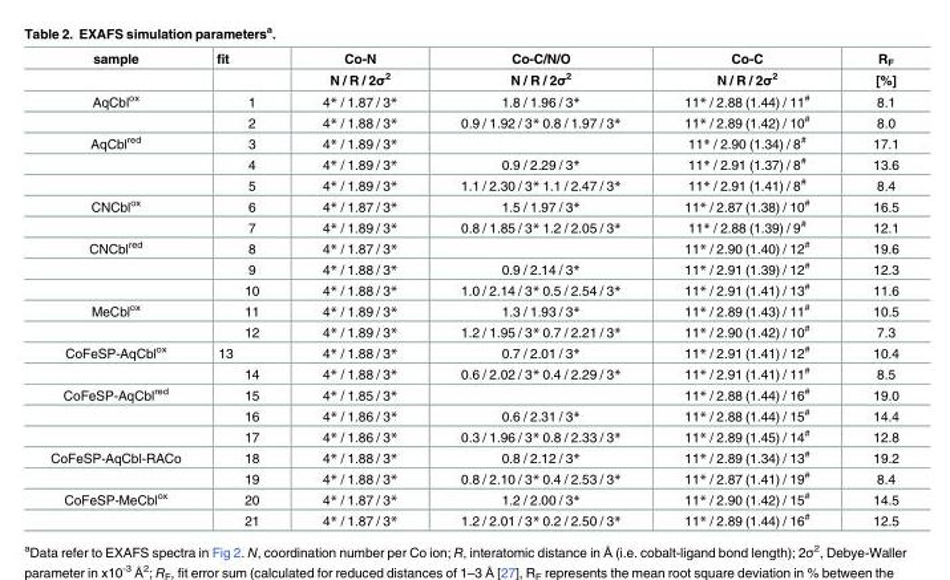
<table><thead><tr><td rowspan="2">sample</td><td rowspan="2">fit</td><td rowspan="2">Co-N N / R / 2σ<sup>2</sup></td><td rowspan="2">Co-C/N/O N / R / 2σ<sup>2</sup></td><td rowspan="2">Co-C N / R / 2σ<sup>2</sup></td><td rowspan="2">R<sub>F</sub> [%]</td></tr><tr></tr></thead><tbody><tr><td rowspan="2">AqCbl<sup>ox</sup></td><td>1</td><td>4* / 1.87 / 3*</td><td>1.8 / 1.96 / 3*</td><td>11* / 2.88 (1.44) / 11<sup>#</sup></td><td>8.1</td></tr><tr><td>2</td><td>4* / 1.88 / 3*</td><td>0.9 / 1.92 / 3* 0.8 / 1.97 / 3*</td><td>11* / 2.89 (1.42) / 10<sup>#</sup></td><td>8.0</td></tr><tr><td rowspan="3">AqCbl<sup>red</sup></td><td>3</td><td>4* / 1.89 / 3*</td><td></td><td>11* / 2.90 (1.34) / 8<sup>#</sup></td><td>17.1</td></tr><tr><td>4</td><td>4* / 1.89 / 3*</td><td>0.9 / 2.29 / 3*</td><td>11* / 2.91 (1.37) / 8<sup>#</sup></td><td>13.6</td></tr><tr><td>5</td><td>4* / 1.89 / 3*</td><td>1.1 / 2.30 / 3* 1.1 / 2.47 / 3*</td><td>11* / 2.91 (1.41) / 8<sup>#</sup></td><td>8.4</td></tr><tr><td rowspan="2">CNCbl<sup>ox</sup></td><td>6</td><td>4* / 1.87 / 3*</td><td>1.5 / 1.97 / 3*</td><td>11* / 2.87 (1.38) / 10<sup>#</sup></td><td>16.5</td></tr><tr><td>7</td><td>4* / 1.89 / 3*</td><td>0.8 / 1.85 / 3* 1.2 / 2.05 / 3*</td><td>11* / 2.88 (1.39) / 9<sup>#</sup></td><td>12.1</td></tr><tr><td rowspan="3">CNCbl<sup>red</sup></td><td>8</td><td>4* / 1.87 / 3*</td><td></td><td>11* / 2.90 (1.40) / 12<sup>#</sup></td><td>19.6</td></tr><tr><td>9</td><td>4* / 1.88 / 3*</td><td>0.9 / 2.14 / 3*</td><td>11* / 2.91 (1.39) / 12<sup>#</sup></td><td>12.3</td></tr><tr><td>10</td><td>4* / 1.88 / 3*</td><td>1.0 / 2.14 / 3* 0.5 / 2.54 / 3*</td><td>11* / 2.91 (1.41) / 13<sup>#</sup></td><td>11.6</td></tr><tr><td rowspan="2">MeCbl<sup>ox</sup></td><td>11</td><td>4* / 1.89 / 3*</td><td>1.3 / 1.93 / 3*</td><td>11* / 2.89 (1.43) / 11<sup>#</sup></td><td>10.5</td></tr><tr><td>12</td><td>4* / 1.89 / 3*</td><td>1.2 / 1.95 / 3* 0.7 / 2.21 / 3*</td><td>11* / 2.90 (1.42) / 10<sup>#</sup></td><td>7.3</td></tr><tr><td rowspan="2">CoFeSP-AqCbl<sup>ox</sup></td><td>13</td><td>4* / 1.88 / 3*</td><td>0.7 / 2.01 / 3*</td><td>11* / 2.91 (1.41) / 12<sup>#</sup></td><td>10.4</td></tr><tr><td>14</td><td>4* / 1.88 / 3*</td><td>0.6 / 2.02 / 3* 0.4 / 2.29 / 3*</td><td>11* / 2.91 (1.41) / 11<sup>#</sup></td><td>8.5</td></tr><tr><td rowspan="3">CoFeSP-AqCbl<sup>red</sup></td><td>15</td><td>4* / 1.85 / 3*</td><td></td><td>11* / 2.88 (1.44) / 16<sup>#</sup></td><td>19.0</td></tr><tr><td>16</td><td>4* / 1.86 / 3*</td><td>0.6 / 2.31 / 3*</td><td>11* / 2.88 (1.44) / 15<sup>#</sup></td><td>14.4</td></tr><tr><td>17</td><td>4* / 1.86 / 3*</td><td>0.3 / 1.96 / 3* 0.8 / 2.33 / 3*</td><td>11* / 2.89 (1.45) / 14<sup>#</sup></td><td>12.8</td></tr><tr><td rowspan="2">CoFeSP-AqCbl-RACo</td><td>18</td><td>4* / 1.88 / 3*</td><td>0.8 / 2.12 / 3*</td><td>11* / 2.89 (1.34) / 13<sup>#</sup></td><td>19.2</td></tr><tr><td>19</td><td>4* / 1.88 / 3*</td><td>0.8 / 2.10 / 3* 0.4 / 2.53 / 3*</td><td>11* / 2.87 (1.41) / 19<sup>#</sup></td><td>8.4</td></tr><tr><td rowspan="2">CoFeSP-MeCbl<sup>ox</sup></td><td>20</td><td>4* / 1.87 / 3*</td><td>1.2 / 2.00 / 3*</td><td>11* / 2.90 (1.42) / 15<sup>#</sup></td><td>14.5</td></tr><tr><td>21</td><td>4* / 1.87 / 3*</td><td>1.2 / 2.01 / 3* 0.2 / 2.50 / 3*</td><td>11* / 2.89 (1.44) / 16<sup>#</sup></td><td>12.5</td></tr></tbody></table>